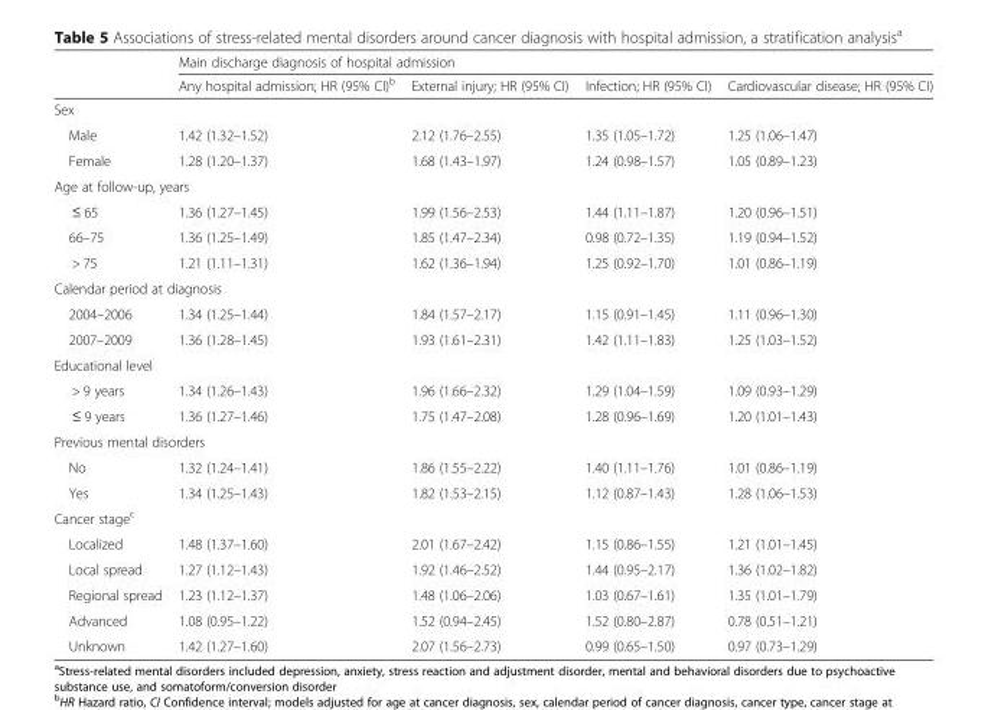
<table><thead><tr><td rowspan="2"></td><td colspan="4">Main discharge diagnosis of hospital admission</td></tr><tr><td>Any hospital admission; HR (95% CI)<sup>b</sup></td><td>External injury; HR (95% CI)</td><td>Infection; HR (95% CI)</td><td>Cardiovascular disease; HR (95% CI)</td></tr></thead><tbody><tr><td colspan="5">Sex</td></tr><tr><td>Male</td><td>1.42 (1.32–1.52)</td><td>2.12 (1.76–2.55)</td><td>1.35 (1.05–1.72)</td><td>1.25 (1.06–1.47)</td></tr><tr><td>Female</td><td>1.28 (1.20–1.37)</td><td>1.68 (1.43–1.97)</td><td>1.24 (0.98–1.57)</td><td>1.05 (0.89–1.23)</td></tr><tr><td colspan="5">Age at follow-up, years</td></tr><tr><td>≤ 65</td><td>1.36 (1.27–1.45)</td><td>1.99 (1.56–2.53)</td><td>1.44 (1.11–1.87)</td><td>1.20 (0.96–1.51)</td></tr><tr><td>66–75</td><td>1.36 (1.25–1.49)</td><td>1.85 (1.47–2.34)</td><td>0.98 (0.72–1.35)</td><td>1.19 (0.94–1.52)</td></tr><tr><td>&gt; 75</td><td>1.21 (1.11–1.31)</td><td>1.62 (1.36–1.94)</td><td>1.25 (0.92–1.70)</td><td>1.01 (0.86–1.19)</td></tr><tr><td colspan="5">Calendar period at diagnosis</td></tr><tr><td>2004–2006</td><td>1.34 (1.25–1.44)</td><td>1.84 (1.57–2.17)</td><td>1.15 (0.91–1.45)</td><td>1.11 (0.96–1.30)</td></tr><tr><td>2007–2009</td><td>1.36 (1.28–1.45)</td><td>1.93 (1.61–2.31)</td><td>1.42 (1.11–1.83)</td><td>1.25 (1.03–1.52)</td></tr><tr><td colspan="5">Educational level</td></tr><tr><td>&gt; 9 years</td><td>1.34 (1.26–1.43)</td><td>1.96 (1.66–2.32)</td><td>1.29 (1.04–1.59)</td><td>1.09 (0.93–1.29)</td></tr><tr><td>≤ 9 years</td><td>1.36 (1.27–1.46)</td><td>1.75 (1.47–2.08)</td><td>1.28 (0.96–1.69)</td><td>1.20 (1.01–1.43)</td></tr><tr><td colspan="5">Previous mental disorders</td></tr><tr><td>No</td><td>1.32 (1.24–1.41)</td><td>1.86 (1.55–2.22)</td><td>1.40 (1.11–1.76)</td><td>1.01 (0.86–1.19)</td></tr><tr><td>Yes</td><td>1.34 (1.25–1.43)</td><td>1.82 (1.53–2.15)</td><td>1.12 (0.87–1.43)</td><td>1.28 (1.06–1.53)</td></tr><tr><td colspan="5">Cancer stage<sup>c</sup></td></tr><tr><td>Localized</td><td>1.48 (1.37–1.60)</td><td>2.01 (1.67–2.42)</td><td>1.15 (0.86–1.55)</td><td>1.21 (1.01–1.45)</td></tr><tr><td>Local spread</td><td>1.27 (1.12–1.43)</td><td>1.92 (1.46–2.52)</td><td>1.44 (0.95–2.17)</td><td>1.36 (1.02–1.82)</td></tr><tr><td>Regional spread</td><td>1.23 (1.12–1.37)</td><td>1.48 (1.06–2.06)</td><td>1.03 (0.67–1.61)</td><td>1.35 (1.01–1.79)</td></tr><tr><td>Advanced</td><td>1.08 (0.95–1.22)</td><td>1.52 (0.94–2.45)</td><td>1.52 (0.80–2.87)</td><td>0.78 (0.51–1.21)</td></tr><tr><td>Unknown</td><td>1.42 (1.27–1.60)</td><td>2.07 (1.56–2.73)</td><td>0.99 (0.65–1.50)</td><td>0.97 (0.73–1.29)</td></tr></tbody></table>